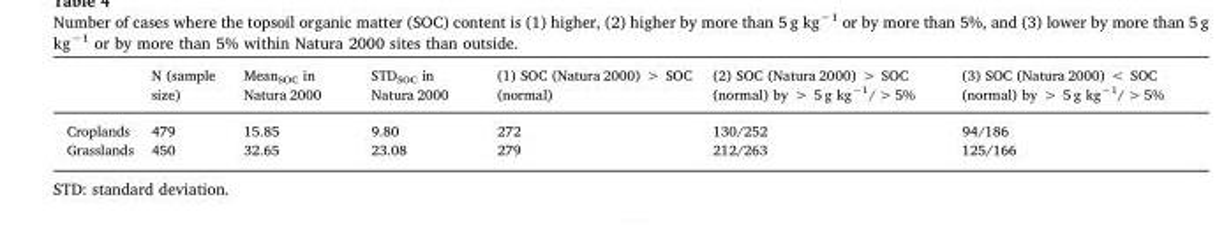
<table><thead><tr><td></td><td>N (sample size)</td><td>Mean<sub>SOC</sub> in Natura 2000</td><td>STD<sub>SOC</sub> in Natura 2000</td><td>(1) SOC (Natura 2000) &gt; SOC (normal)</td><td>(2) SOC (Natura 2000) &gt; SOC (normal) by &gt; 5 g kg<sup>−1</sup>/ &gt; 5%</td><td>(3) SOC (Natura 2000) &lt; SOC (normal) by &gt; 5 g kg<sup>−1</sup>/ &gt; 5%</td></tr></thead><tbody><tr><td>Croplands</td><td>479</td><td>15.85</td><td>9.80</td><td>272</td><td>130/252</td><td>94/186</td></tr><tr><td>Grasslands</td><td>450</td><td>32.65</td><td>23.08</td><td>279</td><td>212/263</td><td>125/166</td></tr></tbody></table>